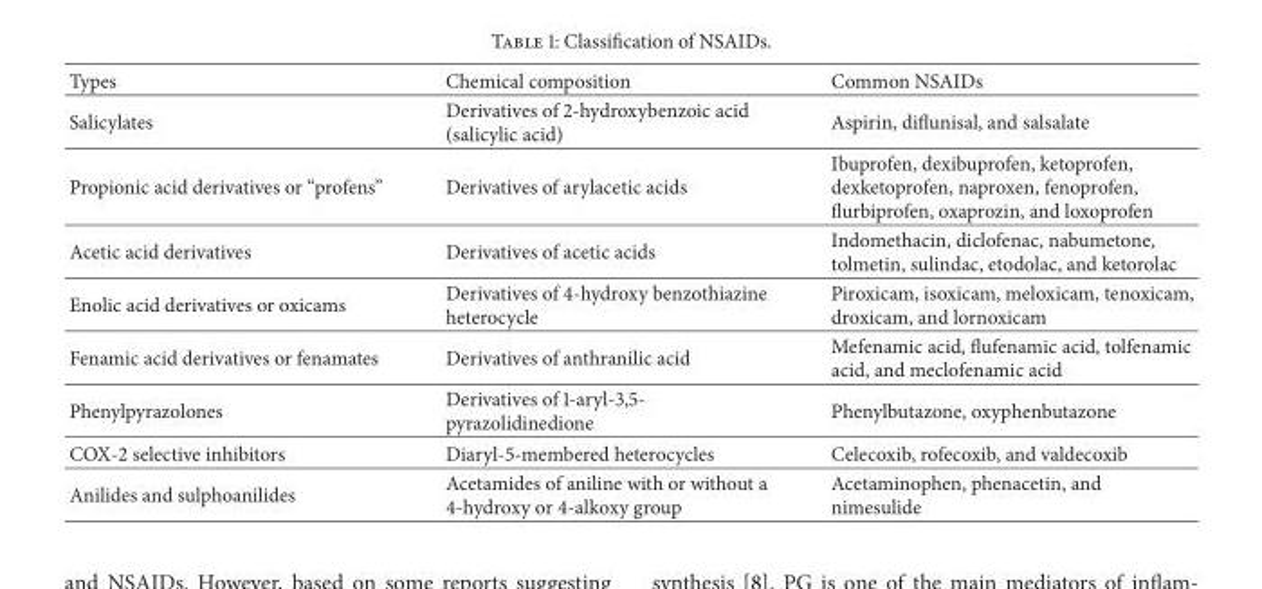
<table><thead><tr><td>Types</td><td>Chemical composition</td><td>Common NSAIDs</td></tr></thead><tbody><tr><td>Salicylates</td><td>Derivatives of 2-hydroxybenzoic acid (salicylic acid)</td><td>Aspirin, diflunisal, and salsalate</td></tr><tr><td>Propionic acid derivatives or “profens”</td><td>Derivatives of arylacetic acids</td><td>Ibuprofen, dexibuprofen, ketoprofen, dexketoprofen, naproxen, fenoprofen, flurbiprofen, oxaprozin, and loxoprofen</td></tr><tr><td>Acetic acid derivatives</td><td>Derivatives of acetic acids</td><td>Indomethacin, diclofenac, nabumetone, tolmetin, sulindac, etodolac, and ketorolac</td></tr><tr><td>Enolic acid derivatives or oxicams</td><td>Derivatives of 4-hydroxy benzothiazine heterocycle</td><td>Piroxicam, isoxicam, meloxicam, tenoxicam, droxicam, and lornoxicam</td></tr><tr><td>Fenamic acid derivatives or fenamates</td><td>Derivatives of anthranilic acid</td><td>Mefenamic acid, flufenamic acid, tolfenamic acid, and meclofenamic acid</td></tr><tr><td>Phenylpyrazolones</td><td>Derivatives of 1-aryl-3,5- pyrazolidinedione</td><td>Phenylbutazone, oxyphenbutazone</td></tr><tr><td>COX-2 selective inhibitors</td><td>Diaryl-5-membered heterocycles</td><td>Celecoxib, rofecoxib, and valdecoxib</td></tr><tr><td>Anilides and sulphoanilides</td><td>Acetamides of aniline with or without a 4-hydroxy or 4-alkoxy group</td><td>Acetaminophen, phenacetin, and nimesulide</td></tr></tbody></table>